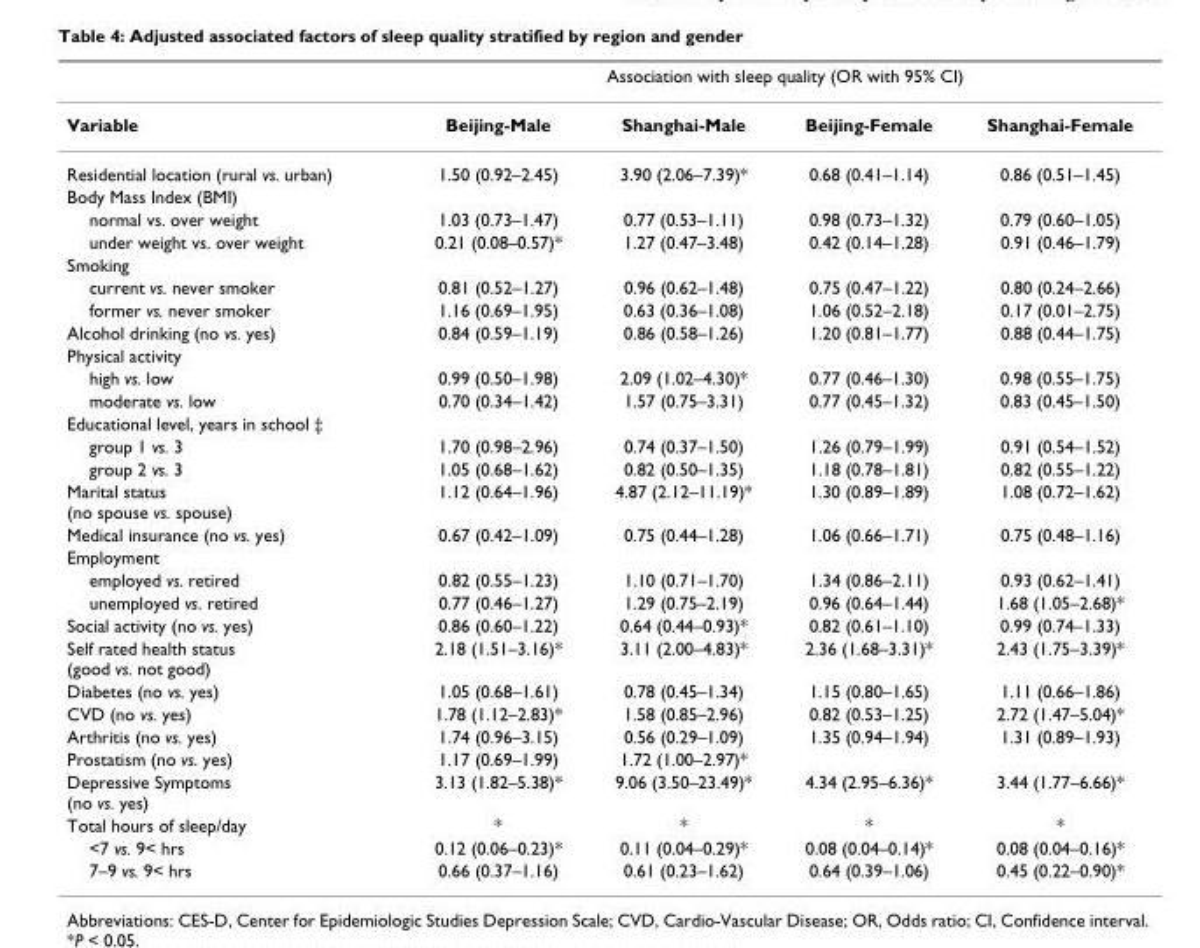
<table><thead><tr><td rowspan="2">Variable</td><td colspan="4">Association with sleep quality (OR with 95% CI)</td></tr><tr><td>Beijing-Male</td><td>Shanghai-Male</td><td>Beijing-Female</td><td>Shanghai-Female</td></tr></thead><tbody><tr><td>Residential location (rural vs. urban)</td><td>1.50 (0.92–2.45)</td><td>3.90 (2.06–7.39)*</td><td>0.68 (0.41–1.14)</td><td>0.86 (0.51–1.45)</td></tr><tr><td colspan="5">Body Mass Index (BMI)</td></tr><tr><td>normal vs. over weight</td><td>1.03 (0.73–1.47)</td><td>0.77 (0.53–1.11)</td><td>0.98 (0.73–1.32)</td><td>0.79 (0.60–1.05)</td></tr><tr><td>under weight vs. over weight</td><td>0.21 (0.08–0.57)*</td><td>1.27 (0.47–3.48)</td><td>0.42 (0.14–1.28)</td><td>0.91 (0.46–1.79)</td></tr><tr><td colspan="5">Smoking</td></tr><tr><td>current vs. never smoker</td><td>0.81 (0.52–1.27)</td><td>0.96 (0.62–1.48)</td><td>0.75 (0.47–1.22)</td><td>0.80 (0.24–2.66)</td></tr><tr><td>former vs. never smoker</td><td>1.16 (0.69–1.95)</td><td>0.63 (0.36–1.08)</td><td>1.06 (0.52–2.18)</td><td>0.17 (0.01–2.75)</td></tr><tr><td>Alcohol drinking (no vs. yes)</td><td>0.84 (0.59–1.19)</td><td>0.86 (0.58–1.26)</td><td>1.20 (0.81–1.77)</td><td>0.88 (0.44–1.75)</td></tr><tr><td colspan="5">Physical activity</td></tr><tr><td>high vs. low</td><td>0.99 (0.50–1.98)</td><td>2.09 (1.02–4.30)*</td><td>0.77 (0.46–1.30)</td><td>0.98 (0.55–1.75)</td></tr><tr><td>moderate vs. low</td><td>0.70 (0.34–1.42)</td><td>1.57 (0.75–3.31)</td><td>0.77 (0.45–1.32)</td><td>0.83 (0.45–1.50)</td></tr><tr><td colspan="5">Educational level, years in school ‡</td></tr><tr><td>group 1 vs. 3</td><td>1.70 (0.98–2.96)</td><td>0.74 (0.37–1.50)</td><td>1.26 (0.79–1.99)</td><td>0.91 (0.54–1.52)</td></tr><tr><td>group 2 vs. 3</td><td>1.05 (0.68–1.62)</td><td>0.82 (0.50–1.35)</td><td>1.18 (0.78–1.81)</td><td>0.82 (0.55–1.22)</td></tr><tr><td>Marital status (no spouse vs. spouse)</td><td>1.12 (0.64–1.96)</td><td>4.87 (2.12–11.19)*</td><td>1.30 (0.89–1.89)</td><td>1.08 (0.72–1.62)</td></tr><tr><td>Medical insurance (no vs. yes)</td><td>0.67 (0.42–1.09)</td><td>0.75 (0.44–1.28)</td><td>1.06 (0.66–1.71)</td><td>0.75 (0.48–1.16)</td></tr><tr><td colspan="5">Employment</td></tr><tr><td>employed vs. retired</td><td>0.82 (0.55–1.23)</td><td>1.10 (0.71–1.70)</td><td>1.34 (0.86–2.11)</td><td>0.93 (0.62–1.41)</td></tr><tr><td>unemployed vs. retired</td><td>0.77 (0.46–1.27)</td><td>1.29 (0.75–2.19)</td><td>0.96 (0.64–1.44)</td><td>1.68 (1.05–2.68)*</td></tr><tr><td>Social activity (no vs. yes)</td><td>0.86 (0.60–1.22)</td><td>0.64 (0.44–0.93)*</td><td>0.82 (0.61–1.10)</td><td>0.99 (0.74–1.33)</td></tr><tr><td>Self rated health status (good vs. not good)</td><td>2.18 (1.51–3.16)*</td><td>3.11 (2.00–4.83)*</td><td>2.36 (1.68–3.31)*</td><td>2.43 (1.75–3.39)*</td></tr><tr><td>Diabetes (no vs. yes)</td><td>1.05 (0.68–1.61)</td><td>0.78 (0.45–1.34)</td><td>1.15 (0.80–1.65)</td><td>1.11 (0.66–1.86)</td></tr><tr><td>CVD (no vs. yes)</td><td>1.78 (1.12–2.83)*</td><td>1.58 (0.85–2.96)</td><td>0.82 (0.53–1.25)</td><td>2.72 (1.47–5.04)*</td></tr><tr><td>Arthritis (no vs. yes)</td><td>1.74 (0.96–3.15)</td><td>0.56 (0.29–1.09)</td><td>1.35 (0.94–1.94)</td><td>1.31 (0.89–1.93)</td></tr><tr><td>Prostatism (no vs. yes)</td><td>1.17 (0.69–1.99)</td><td>1.72 (1.00–2.97)*</td><td></td><td></td></tr><tr><td>Depressive Symptoms (no vs. yes)</td><td>3.13 (1.82–5.38)*</td><td>9.06 (3.50–23.49)*</td><td>4.34 (2.95–6.36)*</td><td>3.44 (1.77–6.66)*</td></tr><tr><td>Total hours of sleep/day</td><td>*</td><td>*</td><td>*</td><td>*</td></tr><tr><td>&lt;7 vs. 9&lt; hrs</td><td>0.12 (0.06–0.23)*</td><td>0.11 (0.04–0.29)*</td><td>0.08 (0.04–0.14)*</td><td>0.08 (0.04–0.16)*</td></tr><tr><td>7–9 vs. 9&lt; hrs</td><td>0.66 (0.37–1.16)</td><td>0.61 (0.23–1.62)</td><td>0.64 (0.39–1.06)</td><td>0.45 (0.22–0.90)*</td></tr></tbody></table>